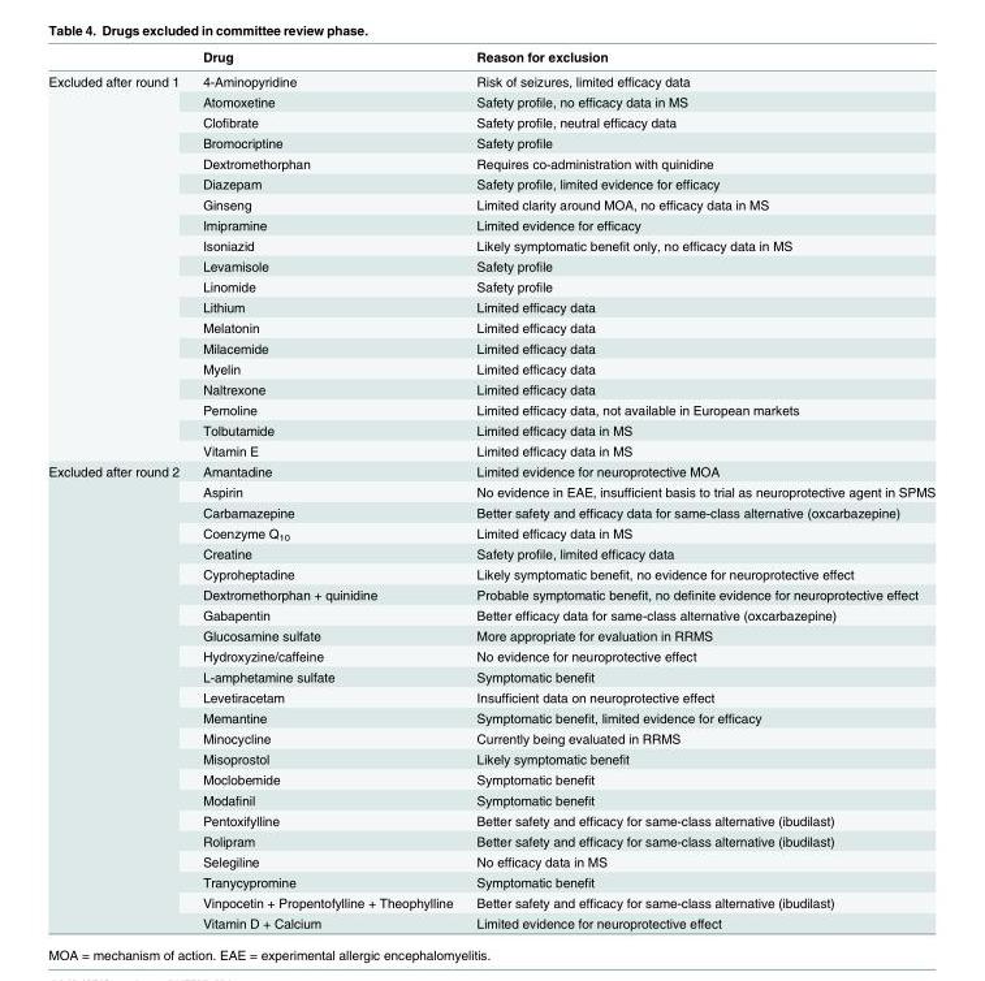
<table><thead><tr><td></td><td>Drug</td><td>Reason for exclusion</td></tr></thead><tbody><tr><td rowspan="19">Excluded after round 1</td><td>4-Aminopyridine</td><td>Risk of seizures, limited efficacy data</td></tr><tr><td>Atomoxetine</td><td>Safety profile, no efficacy data in MS</td></tr><tr><td>Clofibrate</td><td>Safety profile, neutral efficacy data</td></tr><tr><td>Bromocriptine</td><td>Safety profile</td></tr><tr><td>Dextromethorphan</td><td>Requires co-administration with quinidine</td></tr><tr><td>Diazepam</td><td>Safety profile, limited evidence for efficacy</td></tr><tr><td>Ginseng</td><td>Limited clarity around MOA, no efficacy data in MS</td></tr><tr><td>Imipramine</td><td>Limited evidence for efficacy</td></tr><tr><td>Isoniazid</td><td>Likely symptomatic benefit only, no efficacy data in MS</td></tr><tr><td>Levamisole</td><td>Safety profile</td></tr><tr><td>Linomide</td><td>Safety profile</td></tr><tr><td>Lithium</td><td>Limited efficacy data</td></tr><tr><td>Melatonin</td><td>Limited efficacy data</td></tr><tr><td>Milacemide</td><td>Limited efficacy data</td></tr><tr><td>Myelin</td><td>Limited efficacy data</td></tr><tr><td>Naltrexone</td><td>Limited efficacy data</td></tr><tr><td>Pemoline</td><td>Limited efficacy data, not available in European markets</td></tr><tr><td>Tolbutamide</td><td>Limited efficacy data in MS</td></tr><tr><td>Vitamin E</td><td>Limited efficacy data in MS</td></tr><tr><td rowspan="23">Excluded after round 2</td><td>Amantadine</td><td>Limited evidence for neuroprotective MOA</td></tr><tr><td>Aspirin</td><td>No evidence in EAE, insufficient basis to trial as neuroprotective agent in SPMS</td></tr><tr><td>Carbamazepine</td><td>Better safety and efficacy data for same-class alternative (oxcarbazepine)</td></tr><tr><td>Coenzyme Q<sub>10</sub></td><td>Limited efficacy data in MS</td></tr><tr><td>Creatine</td><td>Safety profile, limited efficacy data</td></tr><tr><td>Cyproheptadine</td><td>Likely symptomatic benefit, no evidence for neuroprotective effect</td></tr><tr><td>Dextromethorphan + quinidine</td><td>Probable symptomatic benefit, no definite evidence for neuroprotective effect</td></tr><tr><td>Gabapentin</td><td>Better efficacy data for same-class alternative (oxcarbazepine)</td></tr><tr><td>Glucosamine sulfate</td><td>More appropriate for evaluation in RRMS</td></tr><tr><td>Hydroxyzine/caffeine</td><td>No evidence for neuroprotective effect</td></tr><tr><td>L-amphetamine sulfate</td><td>Symptomatic benefit</td></tr><tr><td>Levetiracetam</td><td>Insufficient data on neuroprotective effect</td></tr><tr><td>Memantine</td><td>Symptomatic benefit, limited evidence for efficacy</td></tr><tr><td>Minocycline</td><td>Currently being evaluated in RRMS</td></tr><tr><td>Misoprostol</td><td>Likely symptomatic benefit</td></tr><tr><td>Moclobemide</td><td>Symptomatic benefit</td></tr><tr><td>Modafinil</td><td>Symptomatic benefit</td></tr><tr><td>Pentoxifylline</td><td>Better safety and efficacy for same-class alternative (ibudilast)</td></tr><tr><td>Rolipram</td><td>Better safety and efficacy for same-class alternative (ibudilast)</td></tr><tr><td>Selegiline</td><td>No efficacy data in MS</td></tr><tr><td>Tranycypromine</td><td>Symptomatic benefit</td></tr><tr><td>Vinpocetin + Propentofylline + Theophylline</td><td>Better safety and efficacy for same-class alternative (ibudilast)</td></tr><tr><td>Vitamin D + Calcium</td><td>Limited evidence for neuroprotective effect</td></tr></tbody></table>